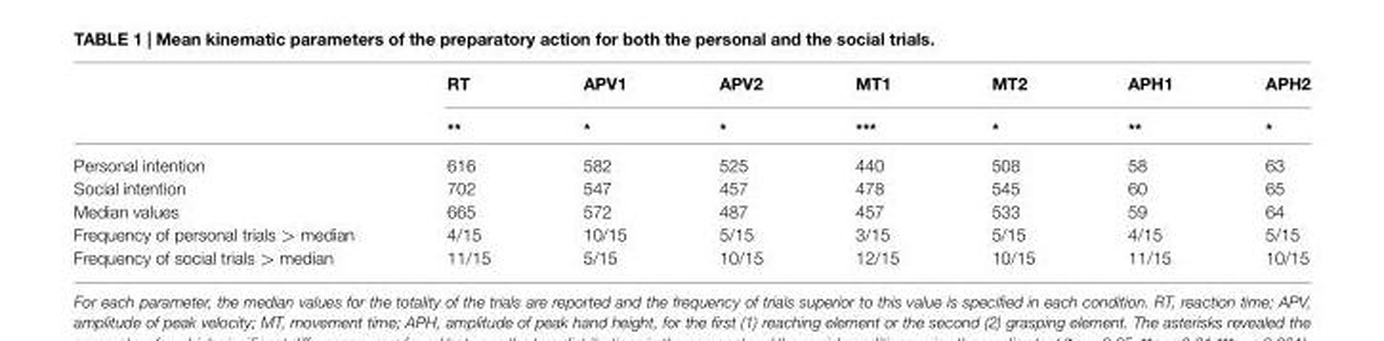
<table><thead><tr><td rowspan="2"></td><td rowspan="2">RT **</td><td rowspan="2">APV1 *</td><td rowspan="2">APV2 *</td><td rowspan="2">MT1 ***</td><td rowspan="2">MT2 *</td><td rowspan="2">APH1 **</td><td rowspan="2">APH2 *</td></tr><tr></tr></thead><tbody><tr><td>Personal intention</td><td>616</td><td>582</td><td>525</td><td>440</td><td>508</td><td>58</td><td>63</td></tr><tr><td>Social intention</td><td>702</td><td>547</td><td>457</td><td>478</td><td>545</td><td>60</td><td>65</td></tr><tr><td>Median values</td><td>665</td><td>572</td><td>487</td><td>457</td><td>533</td><td>59</td><td>64</td></tr><tr><td>Frequency of personal trials &gt; median</td><td>4/15</td><td>10/15</td><td>5/15</td><td>3/15</td><td>5/15</td><td>4/15</td><td>5/15</td></tr><tr><td>Frequency of social trials &gt; median</td><td>11/15</td><td>5/15</td><td>10/15</td><td>12/15</td><td>10/15</td><td>11/15</td><td>10/15</td></tr></tbody></table>